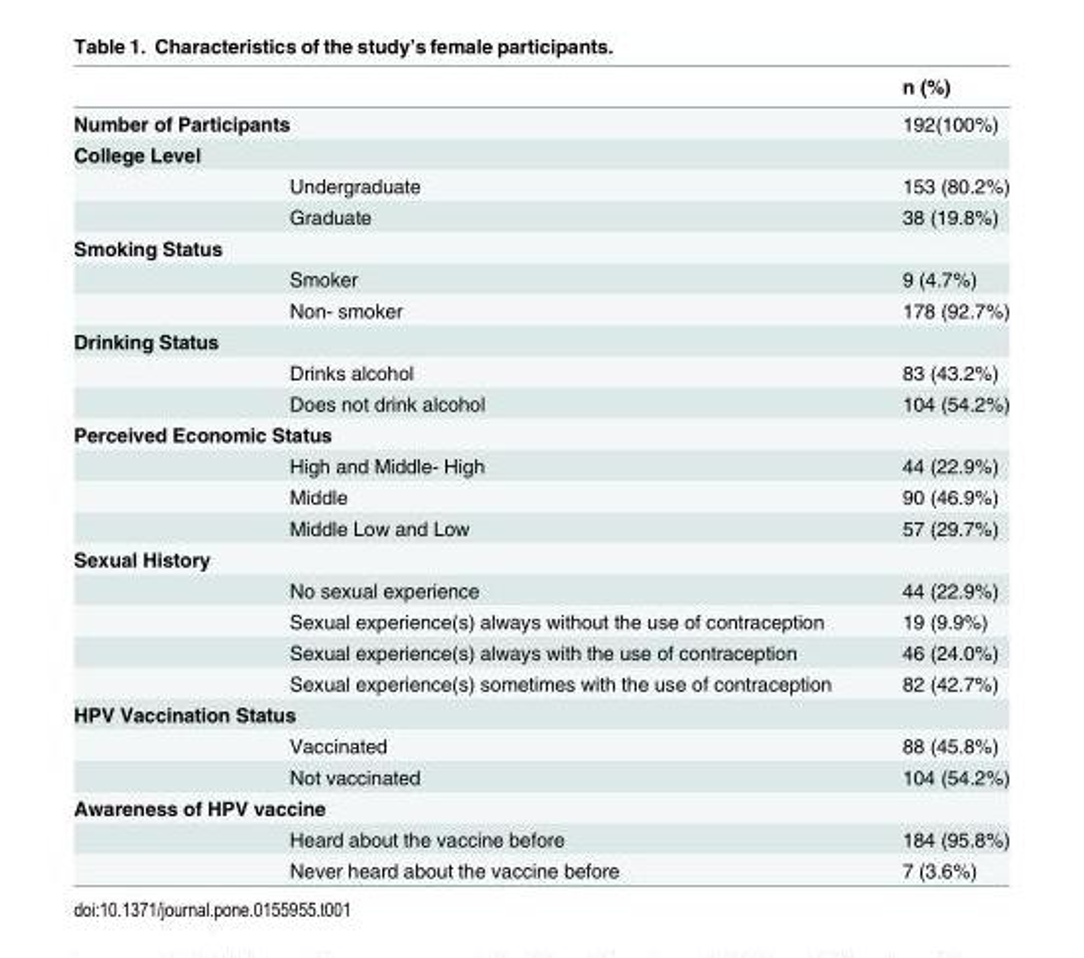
<table><thead><tr><td></td><td></td><td>n (%)</td></tr></thead><tbody><tr><td colspan="2">Number of Participants</td><td>192(100%)</td></tr><tr><td colspan="3">College Level</td></tr><tr><td></td><td>Undergraduate</td><td>153 (80.2%)</td></tr><tr><td></td><td>Graduate</td><td>38 (19.8%)</td></tr><tr><td colspan="3">Smoking Status</td></tr><tr><td></td><td>Smoker</td><td>9 (4.7%)</td></tr><tr><td></td><td>Non- smoker</td><td>178 (92.7%)</td></tr><tr><td colspan="3">Drinking Status</td></tr><tr><td></td><td>Drinks alcohol</td><td>83 (43.2%)</td></tr><tr><td></td><td>Does not drink alcohol</td><td>104 (54.2%)</td></tr><tr><td colspan="3">Perceived Economic Status</td></tr><tr><td></td><td>High and Middle- High</td><td>44 (22.9%)</td></tr><tr><td></td><td>Middle</td><td>90 (46.9%)</td></tr><tr><td></td><td>Middle Low and Low</td><td>57 (29.7%)</td></tr><tr><td colspan="3">Sexual History</td></tr><tr><td></td><td>No sexual experience</td><td>44 (22.9%)</td></tr><tr><td></td><td>Sexual experience(s) always without the use of contraception</td><td>19 (9.9%)</td></tr><tr><td></td><td>Sexual experience(s) always with the use of contraception</td><td>46 (24.0%)</td></tr><tr><td></td><td>Sexual experience(s) sometimes with the use of contraception</td><td>82 (42.7%)</td></tr><tr><td colspan="3">HPV Vaccination Status</td></tr><tr><td></td><td>Vaccinated</td><td>88 (45.8%)</td></tr><tr><td></td><td>Not vaccinated</td><td>104 (54.2%)</td></tr><tr><td colspan="3">Awareness of HPV vaccine</td></tr><tr><td></td><td>Heard about the vaccine before</td><td>184 (95.8%)</td></tr><tr><td></td><td>Never heard about the vaccine before</td><td>7 (3.6%)</td></tr></tbody></table>